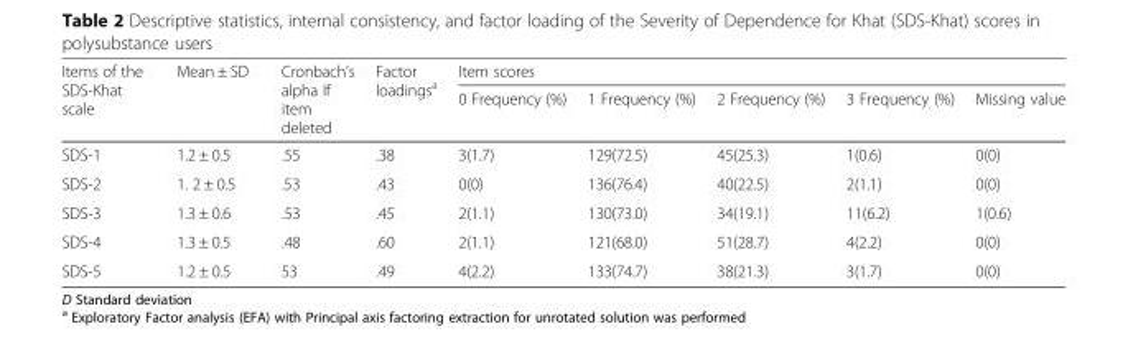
<table><thead><tr><td rowspan="2">Items of the SDS-Khat scale</td><td rowspan="2">Mean ± SD</td><td rowspan="2">Cronbach’s alpha If item deleted</td><td rowspan="2">Factor loadings<sup>a</sup></td><td colspan="5">Item scores</td></tr><tr><td>0 Frequency (%)</td><td>1 Frequency (%)</td><td>2 Frequency (%)</td><td>3 Frequency (%)</td><td>Missing value</td></tr></thead><tbody><tr><td>SDS-1</td><td>1.2 ± 0.5</td><td>.55</td><td>.38</td><td>3(1.7)</td><td>129(72.5)</td><td>45(25.3)</td><td>1(0.6)</td><td>0(0)</td></tr><tr><td>SDS-2</td><td>1. 2 ± 0.5</td><td>.53</td><td>.43</td><td>0(0)</td><td>136(76.4)</td><td>40(22.5)</td><td>2(1.1)</td><td>0(0)</td></tr><tr><td>SDS-3</td><td>1.3 ± 0.6</td><td>.53</td><td>.45</td><td>2(1.1)</td><td>130(73.0)</td><td>34(19.1)</td><td>11(6.2)</td><td>1(0.6)</td></tr><tr><td>SDS-4</td><td>1.3 ± 0.5</td><td>.48</td><td>.60</td><td>2(1.1)</td><td>121(68.0)</td><td>51(28.7)</td><td>4(2.2)</td><td>0(0)</td></tr><tr><td>SDS-5</td><td>1.2 ± 0.5</td><td>53</td><td>.49</td><td>4(2.2)</td><td>133(74.7)</td><td>38(21.3)</td><td>3(1.7)</td><td>0(0)</td></tr></tbody></table>